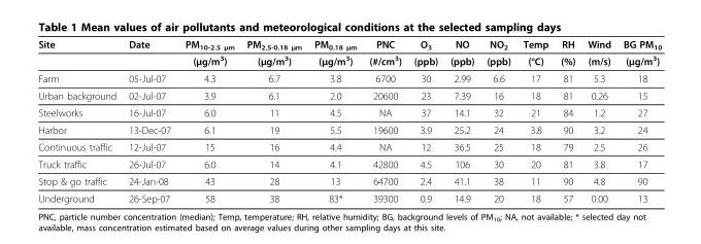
<table><thead><tr><td>Site</td><td>Date</td><td>PM<sub>10-2.5 μm</sub></td><td>PM<sub>2.5-0.18 μm</sub></td><td>PM<sub>0.18 μm</sub></td><td>PNC</td><td>O<sub>3</sub></td><td>NO</td><td>NO<sub>2</sub></td><td>Temp</td><td>RH</td><td>Wind</td><td>BG PM<sub>10</sub></td></tr></thead><tbody><tr><td></td><td></td><td>(μg/m<sup>3</sup>)</td><td>(μg/m<sup>3</sup>)</td><td>(μg/m<sup>3</sup>)</td><td>(#/cm<sup>3</sup>)</td><td>(ppb)</td><td>(ppb)</td><td>(ppb)</td><td>(°C)</td><td>(%)</td><td>(m/s)</td><td>(μg/m<sup>3</sup>)</td></tr><tr><td>Farm</td><td>05-Jul-07</td><td>4.3</td><td>6.7</td><td>3.8</td><td>6700</td><td>30</td><td>2.99</td><td>6.6</td><td>17</td><td>81</td><td>5.3</td><td>18</td></tr><tr><td>Urban background</td><td>02-Jul-07</td><td>3.9</td><td>6.1</td><td>2.0</td><td>20600</td><td>23</td><td>7.39</td><td>16</td><td>18</td><td>81</td><td>0.26</td><td>15</td></tr><tr><td>Steelworks</td><td>16-Jul-07</td><td>6.0</td><td>11</td><td>4.5</td><td>NA</td><td>37</td><td>14.1</td><td>32</td><td>21</td><td>84</td><td>1.2</td><td>27</td></tr><tr><td>Harbor</td><td>13-Dec-07</td><td>6.1</td><td>19</td><td>5.5</td><td>19600</td><td>3.9</td><td>25.2</td><td>24</td><td>3.8</td><td>90</td><td>3.2</td><td>24</td></tr><tr><td>Continuous traffic</td><td>12-Jul-07</td><td>15</td><td>16</td><td>4.4</td><td>NA</td><td>12</td><td>36.5</td><td>25</td><td>18</td><td>79</td><td>2.5</td><td>26</td></tr><tr><td>Truck traffic</td><td>26-Jul-07</td><td>6.0</td><td>14</td><td>4.1</td><td>42800</td><td>4.5</td><td>106</td><td>30</td><td>20</td><td>81</td><td>3.8</td><td>17</td></tr><tr><td>Stop &amp; go traffic</td><td>24-Jan-08</td><td>43</td><td>28</td><td>13</td><td>64700</td><td>2.4</td><td>41.1</td><td>38</td><td>11</td><td>90</td><td>4.8</td><td>90</td></tr><tr><td>Underground</td><td>26-Sep-07</td><td>58</td><td>38</td><td>83*</td><td>39300</td><td>0.9</td><td>14.9</td><td>20</td><td>18</td><td>57</td><td>0.00</td><td>13</td></tr></tbody></table>